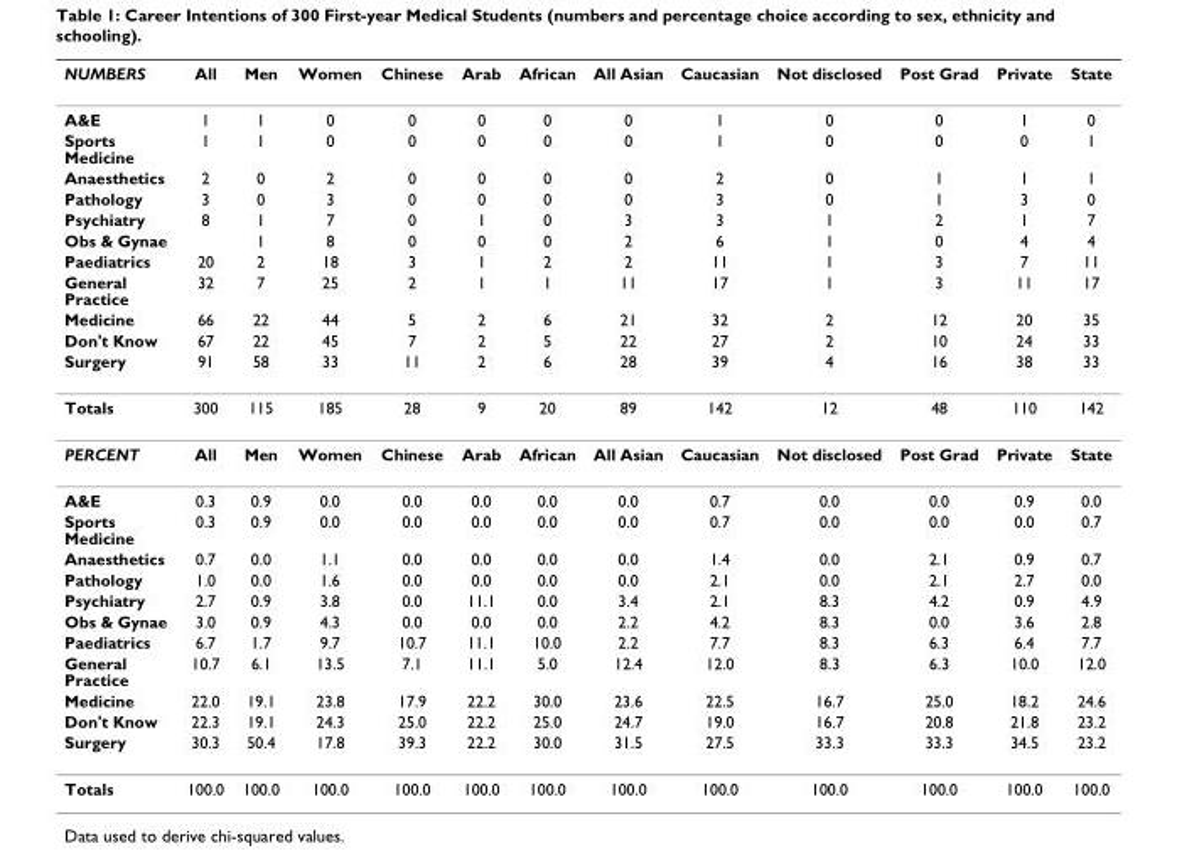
<table><thead><tr><td>NUMBERS</td><td>All</td><td>Men</td><td>Women</td><td>Chinese</td><td>Arab</td><td>African</td><td>All Asian</td><td>Caucasian</td><td>Not disclosed</td><td>Post Grad</td><td>Private</td><td>State</td></tr></thead><tbody><tr><td>A&amp;E</td><td>1</td><td>1</td><td>0</td><td>0</td><td>0</td><td>0</td><td>0</td><td>1</td><td>0</td><td>0</td><td>1</td><td>0</td></tr><tr><td>Sports Medicine</td><td>1</td><td>1</td><td>0</td><td>0</td><td>0</td><td>0</td><td>0</td><td>1</td><td>0</td><td>0</td><td>0</td><td>1</td></tr><tr><td>Anaesthetics</td><td>2</td><td>0</td><td>2</td><td>0</td><td>0</td><td>0</td><td>0</td><td>2</td><td>0</td><td>1</td><td>1</td><td>1</td></tr><tr><td>Pathology</td><td>3</td><td>0</td><td>3</td><td>0</td><td>0</td><td>0</td><td>0</td><td>3</td><td>0</td><td>1</td><td>3</td><td>0</td></tr><tr><td>Psychiatry</td><td>8</td><td>1</td><td>7</td><td>0</td><td>1</td><td>0</td><td>3</td><td>3</td><td>1</td><td>2</td><td>1</td><td>7</td></tr><tr><td>Obs &amp; Gynae</td><td></td><td>1</td><td>8</td><td>0</td><td>0</td><td>0</td><td>2</td><td>6</td><td>1</td><td>0</td><td>4</td><td>4</td></tr><tr><td>Paediatrics</td><td>20</td><td>2</td><td>18</td><td>3</td><td>1</td><td>2</td><td>2</td><td>11</td><td>1</td><td>3</td><td>7</td><td>11</td></tr><tr><td>General Practice</td><td>32</td><td>7</td><td>25</td><td>2</td><td>1</td><td>1</td><td>11</td><td>17</td><td>1</td><td>3</td><td>11</td><td>17</td></tr><tr><td>Medicine</td><td>66</td><td>22</td><td>44</td><td>5</td><td>2</td><td>6</td><td>21</td><td>32</td><td>2</td><td>12</td><td>20</td><td>35</td></tr><tr><td>Don&#x27;t Know</td><td>67</td><td>22</td><td>45</td><td>7</td><td>2</td><td>5</td><td>22</td><td>27</td><td>2</td><td>10</td><td>24</td><td>33</td></tr><tr><td>Surgery</td><td>91</td><td>58</td><td>33</td><td>11</td><td>2</td><td>6</td><td>28</td><td>39</td><td>4</td><td>16</td><td>38</td><td>33</td></tr><tr><td>Totals</td><td>300</td><td>115</td><td>185</td><td>28</td><td>9</td><td>20</td><td>89</td><td>142</td><td>12</td><td>48</td><td>110</td><td>142</td></tr><tr><td>PERCENT</td><td>All</td><td>Men</td><td>Women</td><td>Chinese</td><td>Arab</td><td>African</td><td>All Asian</td><td>Caucasian</td><td>Not disclosed</td><td>Post Grad</td><td>Private</td><td>State</td></tr><tr><td>A&amp;E</td><td>0.3</td><td>0.9</td><td>0.0</td><td>0.0</td><td>0.0</td><td>0.0</td><td>0.0</td><td>0.7</td><td>0.0</td><td>0.0</td><td>0.9</td><td>0.0</td></tr><tr><td>Sports Medicine</td><td>0.3</td><td>0.9</td><td>0.0</td><td>0.0</td><td>0.0</td><td>0.0</td><td>0.0</td><td>0.7</td><td>0.0</td><td>0.0</td><td>0.0</td><td>0.7</td></tr><tr><td>Anaesthetics</td><td>0.7</td><td>0.0</td><td>1.1</td><td>0.0</td><td>0.0</td><td>0.0</td><td>0.0</td><td>1.4</td><td>0.0</td><td>2.1</td><td>0.9</td><td>0.7</td></tr><tr><td>Pathology</td><td>1.0</td><td>0.0</td><td>1.6</td><td>0.0</td><td>0.0</td><td>0.0</td><td>0.0</td><td>2.1</td><td>0.0</td><td>2.1</td><td>2.7</td><td>0.0</td></tr><tr><td>Psychiatry</td><td>2.7</td><td>0.9</td><td>3.8</td><td>0.0</td><td>11.1</td><td>0.0</td><td>3.4</td><td>2.1</td><td>8.3</td><td>4.2</td><td>0.9</td><td>4.9</td></tr><tr><td>Obs &amp; Gynae</td><td>3.0</td><td>0.9</td><td>4.3</td><td>0.0</td><td>0.0</td><td>0.0</td><td>2.2</td><td>4.2</td><td>8.3</td><td>0.0</td><td>3.6</td><td>2.8</td></tr><tr><td>Paediatrics</td><td>6.7</td><td>1.7</td><td>9.7</td><td>10.7</td><td>11.1</td><td>10.0</td><td>2.2</td><td>7.7</td><td>8.3</td><td>6.3</td><td>6.4</td><td>7.7</td></tr><tr><td>General Practice</td><td>10.7</td><td>6.1</td><td>13.5</td><td>7.1</td><td>11.1</td><td>5.0</td><td>12.4</td><td>12.0</td><td>8.3</td><td>6.3</td><td>10.0</td><td>12.0</td></tr><tr><td>Medicine</td><td>22.0</td><td>19.1</td><td>23.8</td><td>17.9</td><td>22.2</td><td>30.0</td><td>23.6</td><td>22.5</td><td>16.7</td><td>25.0</td><td>18.2</td><td>24.6</td></tr><tr><td>Don&#x27;t Know</td><td>22.3</td><td>19.1</td><td>24.3</td><td>25.0</td><td>22.2</td><td>25.0</td><td>24.7</td><td>19.0</td><td>16.7</td><td>20.8</td><td>21.8</td><td>23.2</td></tr><tr><td>Surgery</td><td>30.3</td><td>50.4</td><td>17.8</td><td>39.3</td><td>22.2</td><td>30.0</td><td>31.5</td><td>27.5</td><td>33.3</td><td>33.3</td><td>34.5</td><td>23.2</td></tr><tr><td>Totals</td><td>100.0</td><td>100.0</td><td>100.0</td><td>100.0</td><td>100.0</td><td>100.0</td><td>100.0</td><td>100.0</td><td>100.0</td><td>100.0</td><td>100.0</td><td>100.0</td></tr></tbody></table>